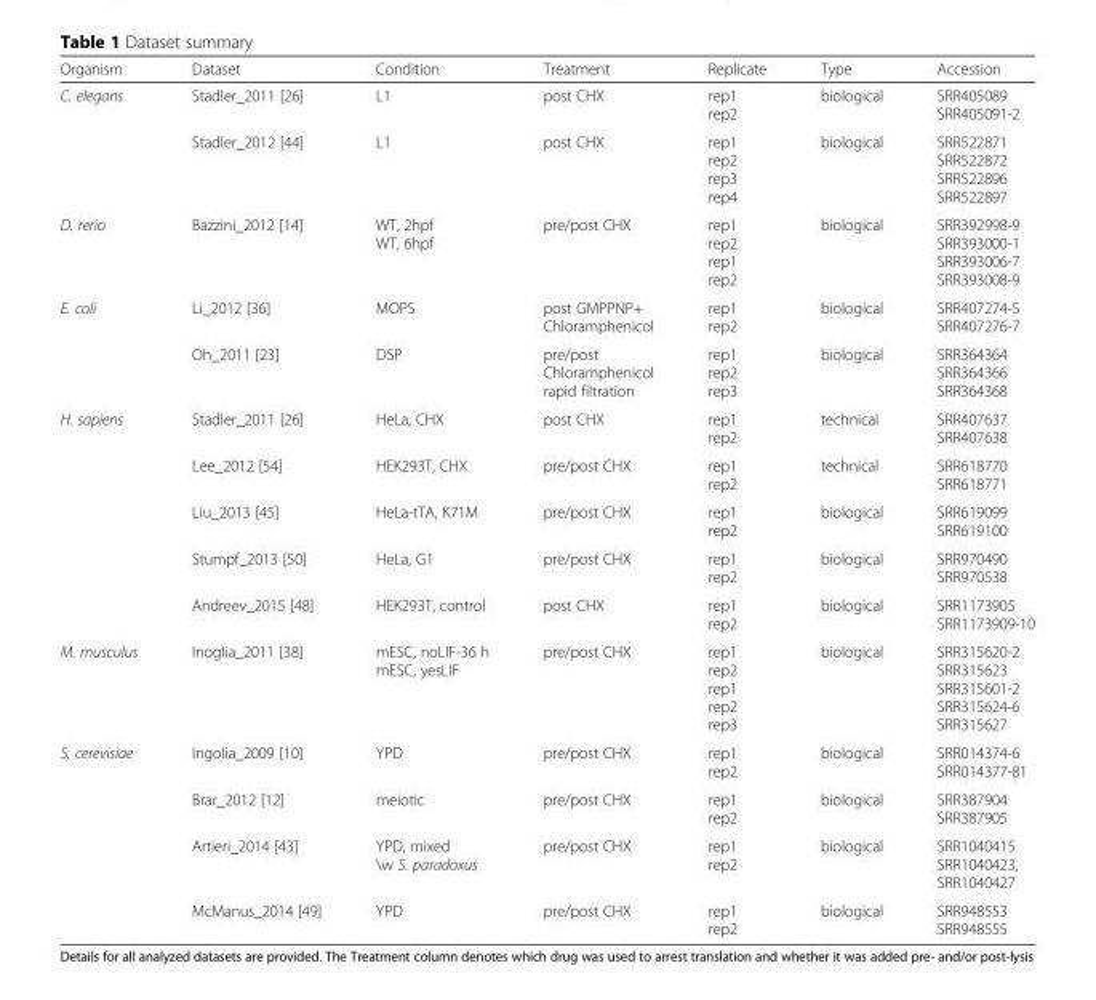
<table><thead><tr><td>Organism</td><td>Dataset</td><td>Condition</td><td>Treatment</td><td>Replicate</td><td>Type</td><td>Accession</td></tr></thead><tbody><tr><td rowspan="2">C. elegans</td><td>Stadler_2011 [26]</td><td>L1</td><td>post CHX</td><td>rep1 rep2</td><td>biological</td><td>SRR405089 SRR405091-2</td></tr><tr><td>Stadler_2012 [44]</td><td>L1</td><td>post CHX</td><td>rep1 rep2 rep3 rep4</td><td>biological</td><td>SRR522871 SRR522872 SRR522896 SRR522897</td></tr><tr><td>D. rerio</td><td>Bazzini_2012 [14]</td><td>WT, 2hpf WT, 6hpf</td><td>pre/post CHX</td><td>rep1 rep2 rep1 rep2</td><td>biological</td><td>SRR392998-9 SRR393000-1 SRR393006-7 SRR393008-9</td></tr><tr><td rowspan="2">E. coli</td><td>Li_2012 [36]</td><td>MOPS</td><td>post GMPPNP+ Chloramphenicol</td><td>rep1 rep2</td><td>biological</td><td>SRR407274-5 SRR407276-7</td></tr><tr><td>Oh_2011 [23]</td><td>DSP</td><td>pre/post Chloramphenicol rapid filtration</td><td>rep1 rep2 rep3</td><td>biological</td><td>SRR364364 SRR364366 SRR364368</td></tr><tr><td rowspan="5">H. sapiens</td><td>Stadler_2011 [26]</td><td>HeLa, CHX</td><td>post CHX</td><td>rep1 rep2</td><td>technical</td><td>SRR407637 SRR407638</td></tr><tr><td>Lee_2012 [54]</td><td>HEK293T, CHX</td><td>pre/post CHX</td><td>rep1 rep2</td><td>technical</td><td>SRR618770 SRR618771</td></tr><tr><td>Liu_2013 [45]</td><td>HeLa-tTA, K71M</td><td>pre/post CHX</td><td>rep1 rep2</td><td>biological</td><td>SRR619099 SRR619100</td></tr><tr><td>Stumpf_2013 [50]</td><td>HeLa, G1</td><td>pre/post CHX</td><td>rep1 rep2</td><td>biological</td><td>SRR970490 SRR970538</td></tr><tr><td>Andreev_2015 [48]</td><td>HEK293T, control</td><td>post CHX</td><td>rep1 rep2</td><td>biological</td><td>SRR1173905 SRR1173909-10</td></tr><tr><td>M. musculus</td><td>Inoglia_2011 [38]</td><td>mESC, noLIF-36 h mESC, yesLIF</td><td>pre/post CHX</td><td>rep1 rep2 rep1 rep2 rep3</td><td>biological</td><td>SRR315620-2 SRR315623 SRR315601-2 SRR315624-6 SRR315627</td></tr><tr><td rowspan="4">S. cerevisiae</td><td>Ingolia_2009 [10]</td><td>YPD</td><td>pre/post CHX</td><td>rep1 rep2</td><td>biological</td><td>SRR014374-6 SRR014377-81</td></tr><tr><td>Brar_2012 [12]</td><td>meiotic</td><td>pre/post CHX</td><td>rep1 rep2</td><td>biological</td><td>SRR387904 SRR387905</td></tr><tr><td>Artieri_2014 [43]</td><td>YPD, mixed \w S. paradoxus</td><td>pre/post CHX</td><td>rep1 rep2</td><td>biological</td><td>SRR1040415 SRR1040423, SRR1040427</td></tr><tr><td>McManus_2014 [49]</td><td>YPD</td><td>pre/post CHX</td><td>rep1 rep2</td><td>biological</td><td>SRR948553 SRR948555</td></tr></tbody></table>